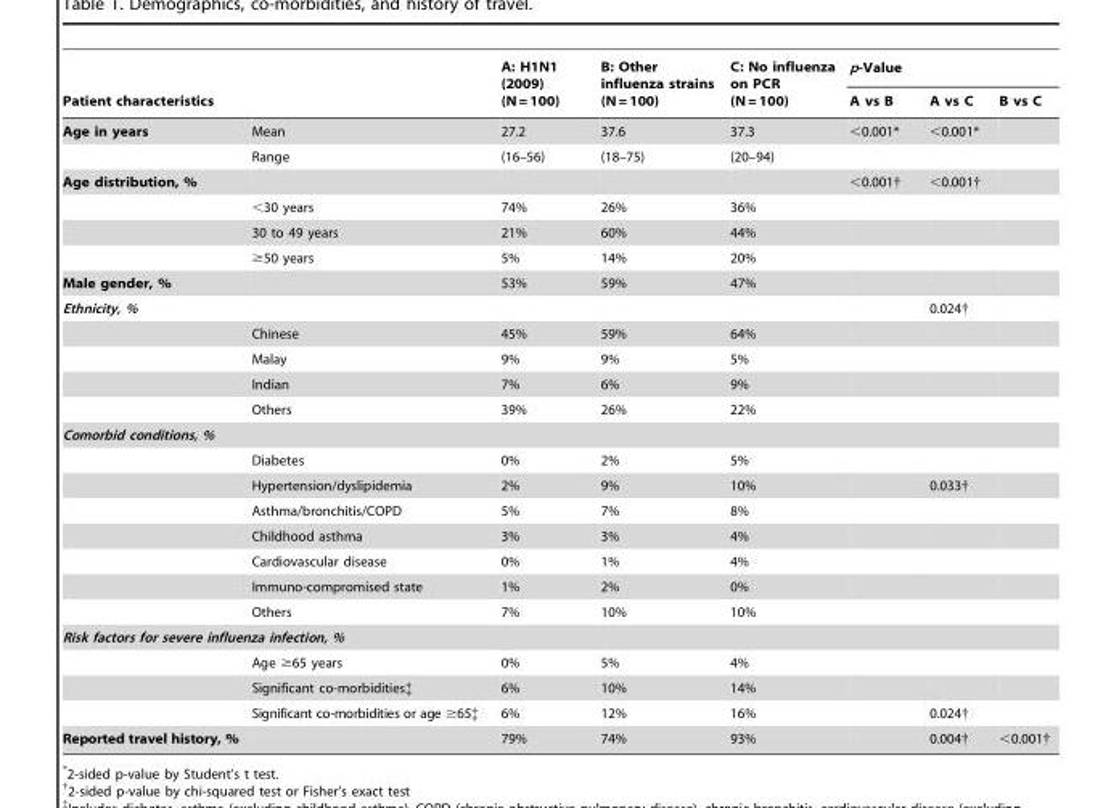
<table><thead><tr><td>Patient characteristics</td><td></td><td>A: H1N1 (2009) (N = 100)</td><td>B: Other influenza strains (N = 100)</td><td>C: No influenza on PCR (N = 100)</td><td>p-Value A vs B</td><td>A vs C</td><td>B vs C</td></tr></thead><tbody><tr><td rowspan="2">Age in years</td><td>Mean</td><td>27.2</td><td>37.6</td><td>37.3</td><td>&lt;0.001*</td><td>&lt;0.001*</td><td></td></tr><tr><td>Range</td><td>(16–56)</td><td>(18–75)</td><td>(20–94)</td><td></td><td></td><td></td></tr><tr><td rowspan="4">Age distribution, %</td><td></td><td></td><td></td><td></td><td>&lt;0.001†</td><td>&lt;0.001†</td><td></td></tr><tr><td>&lt;30 years</td><td>74%</td><td>26%</td><td>36%</td><td></td><td></td><td></td></tr><tr><td>30 to 49 years</td><td>21%</td><td>60%</td><td>44%</td><td></td><td></td><td></td></tr><tr><td>≥50 years</td><td>5%</td><td>14%</td><td>20%</td><td></td><td></td><td></td></tr><tr><td>Male gender, %</td><td></td><td>53%</td><td>59%</td><td>47%</td><td></td><td></td><td></td></tr><tr><td rowspan="5">Ethnicity, %</td><td></td><td></td><td></td><td></td><td></td><td>0.024†</td><td></td></tr><tr><td>Chinese</td><td>45%</td><td>59%</td><td>64%</td><td></td><td></td><td></td></tr><tr><td>Malay</td><td>9%</td><td>9%</td><td>5%</td><td></td><td></td><td></td></tr><tr><td>Indian</td><td>7%</td><td>6%</td><td>9%</td><td></td><td></td><td></td></tr><tr><td>Others</td><td>39%</td><td>26%</td><td>22%</td><td></td><td></td><td></td></tr><tr><td colspan="8">Comorbid conditions, %</td></tr><tr><td></td><td>Diabetes</td><td>0%</td><td>2%</td><td>5%</td><td></td><td></td><td></td></tr><tr><td></td><td>Hypertension/dyslipidemia</td><td>2%</td><td>9%</td><td>10%</td><td></td><td>0.033†</td><td></td></tr><tr><td></td><td>Asthma/bronchitis/COPD</td><td>5%</td><td>7%</td><td>8%</td><td></td><td></td><td></td></tr><tr><td></td><td>Childhood asthma</td><td>3%</td><td>3%</td><td>4%</td><td></td><td></td><td></td></tr><tr><td></td><td>Cardiovascular disease</td><td>0%</td><td>1%</td><td>4%</td><td></td><td></td><td></td></tr><tr><td></td><td>Immuno-compromised state</td><td>1%</td><td>2%</td><td>0%</td><td></td><td></td><td></td></tr><tr><td></td><td>Others</td><td>7%</td><td>10%</td><td>10%</td><td></td><td></td><td></td></tr><tr><td colspan="8">Risk factors for severe influenza infection, %</td></tr><tr><td></td><td>Age ≥65 years</td><td>0%</td><td>5%</td><td>4%</td><td></td><td></td><td></td></tr><tr><td></td><td>Significant co-morbidities‡</td><td>6%</td><td>10%</td><td>14%</td><td></td><td></td><td></td></tr><tr><td></td><td>Significant co-morbidities or age ≥65‡</td><td>6%</td><td>12%</td><td>16%</td><td></td><td>0.024†</td><td></td></tr><tr><td>Reported travel history, %</td><td></td><td>79%</td><td>74%</td><td>93%</td><td></td><td>0.004†</td><td>&lt;0.001†</td></tr></tbody></table>